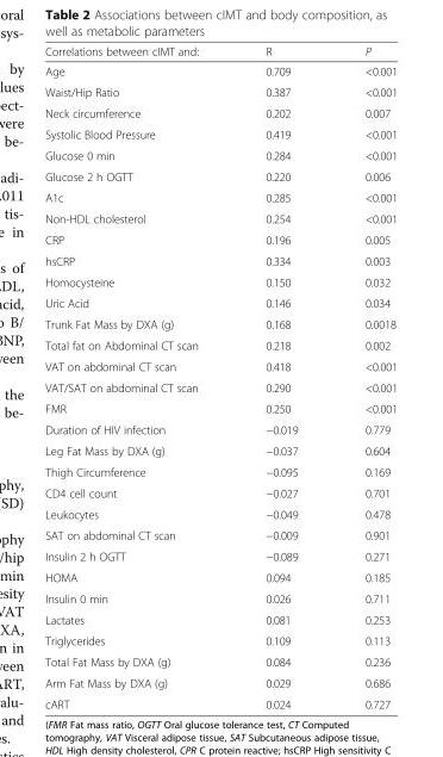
<table><thead><tr><td>Correlations between cIMT and:</td><td>R</td><td>P</td></tr></thead><tbody><tr><td>Age</td><td>0.709</td><td>&lt;0.001</td></tr><tr><td>Waist/Hip Ratio</td><td>0.387</td><td>&lt;0.001</td></tr><tr><td>Neck circumference</td><td>0.202</td><td>0.007</td></tr><tr><td>Systolic Blood Pressure</td><td>0.419</td><td>&lt;0.001</td></tr><tr><td>Glucose 0 min</td><td>0.284</td><td>&lt;0.001</td></tr><tr><td>Glucose 2 h OGTT</td><td>0.220</td><td>0.006</td></tr><tr><td>A1c</td><td>0.285</td><td>&lt;0.001</td></tr><tr><td>Non-HDL cholesterol</td><td>0.254</td><td>&lt;0.001</td></tr><tr><td>CRP</td><td>0.196</td><td>0.005</td></tr><tr><td>hsCRP</td><td>0.334</td><td>0.003</td></tr><tr><td>Homocysteine</td><td>0.150</td><td>0.032</td></tr><tr><td>Uric Acid</td><td>0.146</td><td>0.034</td></tr><tr><td>Trunk Fat Mass by DXA (g)</td><td>0.168</td><td>0.0018</td></tr><tr><td>Total fat on Abdominal CT scan</td><td>0.218</td><td>0.002</td></tr><tr><td>VAT on abdominal CT scan</td><td>0.418</td><td>&lt;0.001</td></tr><tr><td>VAT/SAT on abdominal CT scan</td><td>0.290</td><td>&lt;0.001</td></tr><tr><td>FMR</td><td>0.250</td><td>&lt;0.001</td></tr><tr><td>Duration of HIV infection</td><td>−0.019</td><td>0.779</td></tr><tr><td>Leg Fat Mass by DXA (g)</td><td>−0.037</td><td>0.604</td></tr><tr><td>Thigh Circumference</td><td>−0.095</td><td>0.169</td></tr><tr><td>CD4 cell count</td><td>−0.027</td><td>0.701</td></tr><tr><td>Leukocytes</td><td>−0.049</td><td>0.478</td></tr><tr><td>SAT on abdominal CT scan</td><td>−0.009</td><td>0.901</td></tr><tr><td>Insulin 2 h OGTT</td><td>−0.089</td><td>0.271</td></tr><tr><td>HOMA</td><td>0.094</td><td>0.185</td></tr><tr><td>Insulin 0 min</td><td>0.026</td><td>0.711</td></tr><tr><td>Lactates</td><td>0.081</td><td>0.253</td></tr><tr><td>Triglycerides</td><td>0.109</td><td>0.113</td></tr><tr><td>Total Fat Mass by DXA (g)</td><td>0.084</td><td>0.236</td></tr><tr><td>Arm Fat Mass by DXA (g)</td><td>0.029</td><td>0.686</td></tr><tr><td>cART</td><td>0.024</td><td>0.727</td></tr></tbody></table>